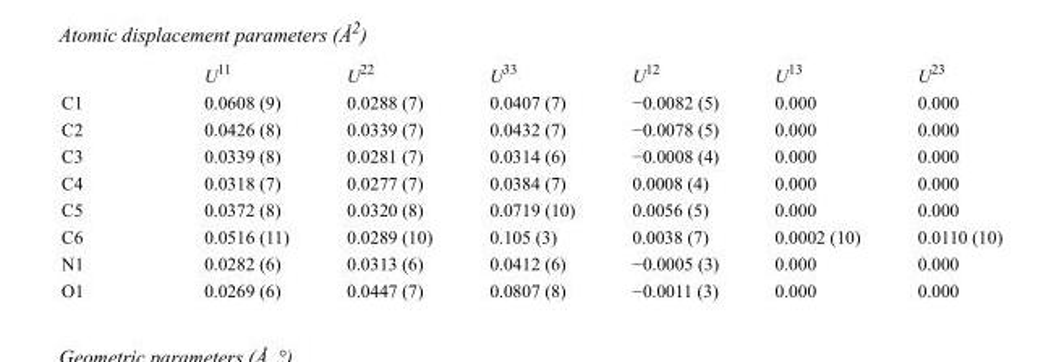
<table><thead><tr><td></td><td>U<sup>11</sup></td><td>U<sup>22</sup></td><td>U<sup>33</sup></td><td>U<sup>12</sup></td><td>U<sup>13</sup></td><td>U<sup>23</sup></td></tr></thead><tbody><tr><td>C1</td><td>0.0608 (9)</td><td>0.0288 (7)</td><td>0.0407 (7)</td><td>−0.0082 (5)</td><td>0.000</td><td>0.000</td></tr><tr><td>C2</td><td>0.0426 (8)</td><td>0.0339 (7)</td><td>0.0432 (7)</td><td>−0.0078 (5)</td><td>0.000</td><td>0.000</td></tr><tr><td>C3</td><td>0.0339 (8)</td><td>0.0281 (7)</td><td>0.0314 (6)</td><td>−0.0008 (4)</td><td>0.000</td><td>0.000</td></tr><tr><td>C4</td><td>0.0318 (7)</td><td>0.0277 (7)</td><td>0.0384 (7)</td><td>0.0008 (4)</td><td>0.000</td><td>0.000</td></tr><tr><td>C5</td><td>0.0372 (8)</td><td>0.0320 (8)</td><td>0.0719 (10)</td><td>0.0056 (5)</td><td>0.000</td><td>0.000</td></tr><tr><td>C6</td><td>0.0516 (11)</td><td>0.0289 (10)</td><td>0.105 (3)</td><td>0.0038 (7)</td><td>0.0002 (10)</td><td>0.0110 (10)</td></tr><tr><td>N1</td><td>0.0282 (6)</td><td>0.0313 (6)</td><td>0.0412 (6)</td><td>−0.0005 (3)</td><td>0.000</td><td>0.000</td></tr><tr><td>O1</td><td>0.0269 (6)</td><td>0.0447 (7)</td><td>0.0807 (8)</td><td>−0.0011 (3)</td><td>0.000</td><td>0.000</td></tr></tbody></table>